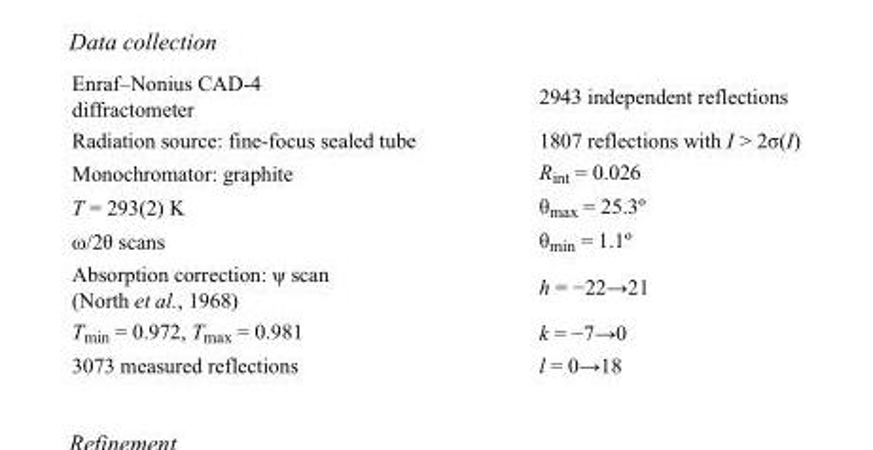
<table><tbody><tr><td>Enraf–Nonius CAD-4 diffractometer</td><td>2943 independent reflections</td></tr><tr><td>Radiation source: fine-focus sealed tube</td><td>1807 reflections with I &gt; 2σ(I)</td></tr><tr><td>Monochromator: graphite</td><td>R<sub>int</sub> = 0.026</td></tr><tr><td>T = 293(2) K</td><td>θ<sub>max</sub> = 25.3º</td></tr><tr><td>ω/2θ scans</td><td>θ<sub>min</sub> = 1.1º</td></tr><tr><td>Absorption correction: ψ scan (North et al., 1968)</td><td>h = −22→21</td></tr><tr><td>T<sub>min</sub> = 0.972, T<sub>max</sub> = 0.981</td><td>k = −7→0</td></tr><tr><td>3073 measured reflections</td><td>l = 0→18</td></tr></tbody></table>